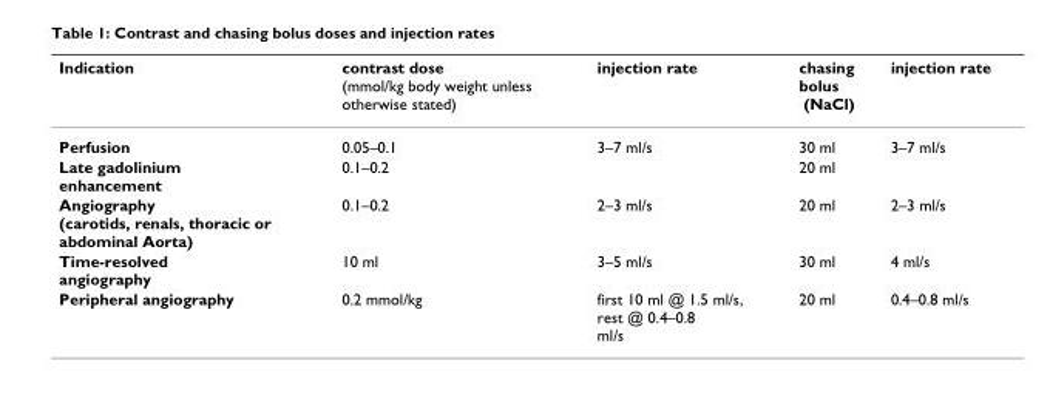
<table><thead><tr><td>Indication</td><td>contrast dose (mmol/kg body weight unless otherwise stated)</td><td>injection rate</td><td>chasing bolus (NaCl)</td><td>injection rate</td></tr></thead><tbody><tr><td>Perfusion</td><td>0.05–0.1</td><td>3–7 ml/s</td><td>30 ml</td><td>3–7 ml/s</td></tr><tr><td>Late gadolinium enhancement</td><td>0.1–0.2</td><td></td><td>20 ml</td><td></td></tr><tr><td>Angiography (carotids, renals, thoracic or abdominal Aorta)</td><td>0.1–0.2</td><td>2–3 ml/s</td><td>20 ml</td><td>2–3 ml/s</td></tr><tr><td>Time-resolved angiography</td><td>10 ml</td><td>3–5 ml/s</td><td>30 ml</td><td>4 ml/s</td></tr><tr><td>Peripheral angiography</td><td>0.2 mmol/kg</td><td>first 10 ml @ 1.5 ml/s, rest @ 0.4–0.8 ml/s</td><td>20 ml</td><td>0.4–0.8 ml/s</td></tr></tbody></table>